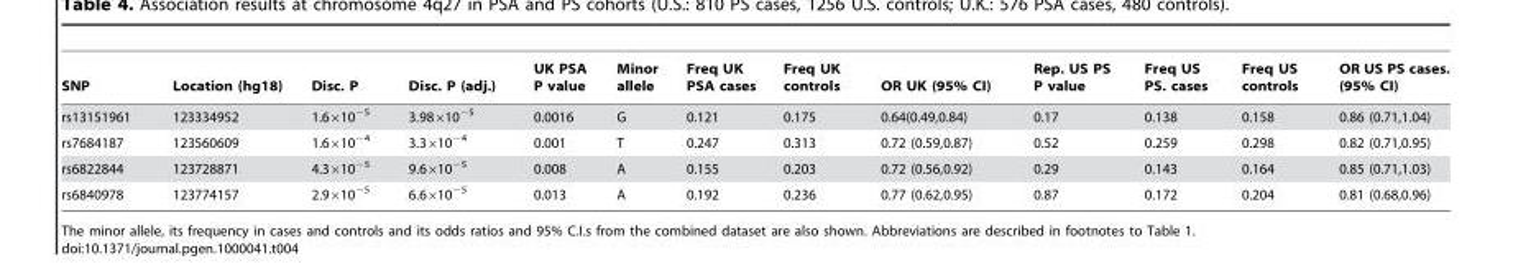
<table><thead><tr><td>SNP</td><td>Location (hg18)</td><td>Disc. P</td><td>Disc. P (adj.)</td><td>UK PSA P value</td><td>Minor allele</td><td>Freq UK PSA cases</td><td>Freq UK controls</td><td>OR UK (95% CI)</td><td>Rep. US PS P value</td><td>Freq US PS. cases</td><td>Freq US controls</td><td>OR US PS cases. (95% CI)</td></tr></thead><tbody><tr><td>rs13151961</td><td>123334952</td><td>1.6×10<sup>−5</sup></td><td>3.98×10<sup>−5</sup></td><td>0.0016</td><td>G</td><td>0.121</td><td>0.175</td><td>0.64(0.49,0.84)</td><td>0.17</td><td>0.138</td><td>0.158</td><td>0.86 (0.71,1.04)</td></tr><tr><td>rs7684187</td><td>123560609</td><td>1.6×10<sup>−4</sup></td><td>3.3×10<sup>−4</sup></td><td>0.001</td><td>T</td><td>0.247</td><td>0.313</td><td>0.72 (0.59,0.87)</td><td>0.52</td><td>0.259</td><td>0.298</td><td>0.82 (0.71,0.95)</td></tr><tr><td>rs6822844</td><td>123728871</td><td>4.3×10<sup>−5</sup></td><td>9.6×10<sup>−5</sup></td><td>0.008</td><td>A</td><td>0.155</td><td>0.203</td><td>0.72 (0.56,0.92)</td><td>0.29</td><td>0.143</td><td>0.164</td><td>0.85 (0.71,1.03)</td></tr><tr><td>rs6840978</td><td>123774157</td><td>2.9×10<sup>−5</sup></td><td>6.6×10<sup>−5</sup></td><td>0.013</td><td>A</td><td>0.192</td><td>0.236</td><td>0.77 (0.62,0.95)</td><td>0.87</td><td>0.172</td><td>0.204</td><td>0.81 (0.68,0.96)</td></tr></tbody></table>